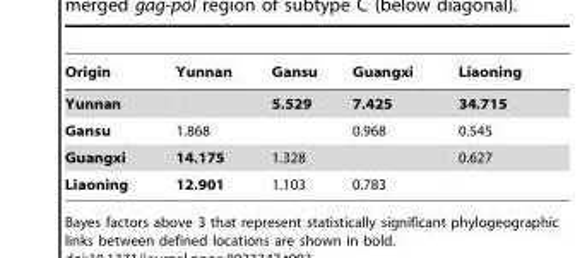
<table><thead><tr><td>Origin</td><td>Yunnan</td><td>Gansu</td><td>Guangxi</td><td>Liaoning</td></tr></thead><tbody><tr><td>Yunnan</td><td></td><td>5.529</td><td>7.425</td><td>34.715</td></tr><tr><td>Gansu</td><td>1.868</td><td></td><td>0.968</td><td>0.545</td></tr><tr><td>Guangxi</td><td>14.175</td><td>1.328</td><td></td><td>0.627</td></tr><tr><td>Liaoning</td><td>12.901</td><td>1.103</td><td>0.783</td><td></td></tr></tbody></table>